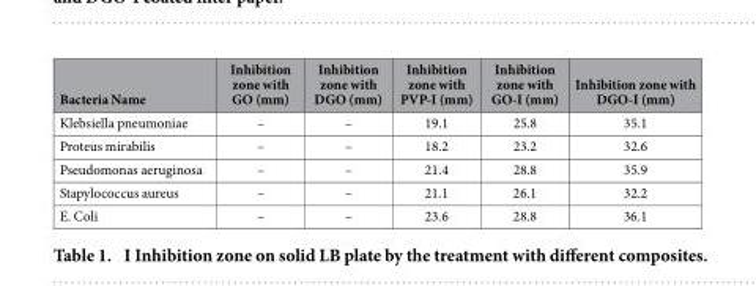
<table><thead><tr><td>Bacteria Name</td><td>Inhibition zone with GO (mm)</td><td>Inhibition zone with DGO (mm)</td><td>Inhibition zone with PVP-I (mm)</td><td>Inhibition zone with GO-I (mm)</td><td>Inhibition zone with DGO-I (mm)</td></tr></thead><tbody><tr><td>Klebsiella pneumoniae</td><td>–</td><td>–</td><td>19.1</td><td>25.8</td><td>35.1</td></tr><tr><td>Proteus mirabilis</td><td>–</td><td>–</td><td>18.2</td><td>23.2</td><td>32.6</td></tr><tr><td>Pseudomonas aeruginosa</td><td>–</td><td>–</td><td>21.4</td><td>28.8</td><td>35.9</td></tr><tr><td>Stapylococcus aureus</td><td>–</td><td>–</td><td>21.1</td><td>26.1</td><td>32.2</td></tr><tr><td>E. Coli</td><td>–</td><td>–</td><td>23.6</td><td>28.8</td><td>36.1</td></tr></tbody></table>